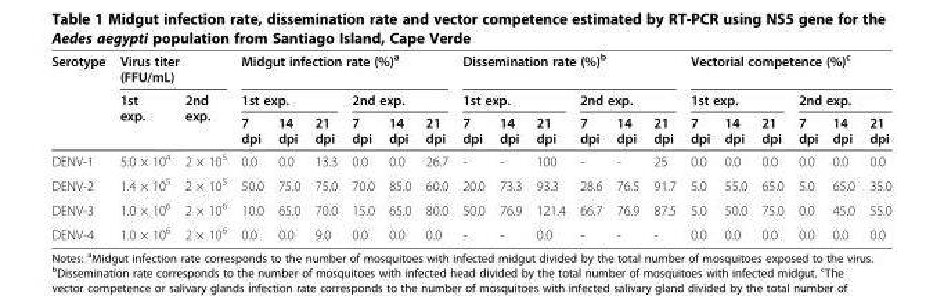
<table><thead><tr><td rowspan="3">Serotype</td><td colspan="2">Virus titer (FFU/mL)</td><td colspan="6">Midgut infection rate (%)<sup>a</sup></td><td colspan="6">Dissemination rate (%)<sup>b</sup></td><td colspan="6">Vectorial competence (%)<sup>c</sup></td></tr><tr><td rowspan="2">1st exp.</td><td rowspan="2">2nd exp.</td><td colspan="3">1st exp.</td><td colspan="3">2nd exp.</td><td colspan="3">1st exp.</td><td colspan="3">2nd exp.</td><td colspan="3">1st exp.</td><td colspan="3">2nd exp.</td></tr><tr><td>7 dpi</td><td>14 dpi</td><td>21 dpi</td><td>7 dpi</td><td>14 dpi</td><td>21 dpi</td><td>7 dpi</td><td>14 dpi</td><td>21 dpi</td><td>7 dpi</td><td>14 dpi</td><td>21 dpi</td><td>7 dpi</td><td>14 dpi</td><td>21 dpi</td><td>7 dpi</td><td>14 dpi</td><td>21 dpi</td></tr></thead><tbody><tr><td>DENV-1</td><td>5.0 × 10<sup>4</sup></td><td>2 × 10<sup>5</sup></td><td>0.0</td><td>0.0</td><td>13.3</td><td>0.0</td><td>0.0</td><td>26.7</td><td>-</td><td>-</td><td>100</td><td>-</td><td>-</td><td>25</td><td>0.0</td><td>0.0</td><td>0.0</td><td>0.0</td><td>0.0</td><td>0.0</td></tr><tr><td>DENV-2</td><td>1.4 × 10<sup>5</sup></td><td>2 × 10<sup>5</sup></td><td>50.0</td><td>75.0</td><td>75.0</td><td>70.0</td><td>85.0</td><td>60.0</td><td>20.0</td><td>73.3</td><td>93.3</td><td>28.6</td><td>76.5</td><td>91.7</td><td>5.0</td><td>55.0</td><td>65.0</td><td>5.0</td><td>65.0</td><td>35.0</td></tr><tr><td>DENV-3</td><td>1.0 × 10<sup>6</sup></td><td>2 × 10<sup>6</sup></td><td>10.0</td><td>65.0</td><td>70.0</td><td>15.0</td><td>65.0</td><td>80.0</td><td>50.0</td><td>76.9</td><td>121.4</td><td>66.7</td><td>76.9</td><td>87.5</td><td>5.0</td><td>50.0</td><td>75.0</td><td>0.0</td><td>45.0</td><td>55.0</td></tr><tr><td>DENV-4</td><td>1.0 × 10<sup>6</sup></td><td>2 × 10<sup>6</sup></td><td>0.0</td><td>0.0</td><td>9.0</td><td>0.0</td><td>0.0</td><td>0.0</td><td>-</td><td>-</td><td>0.0</td><td>-</td><td>-</td><td>-</td><td>0.0</td><td>0.0</td><td>0.0</td><td>0.0</td><td>0.0</td><td>0.0</td></tr></tbody></table>